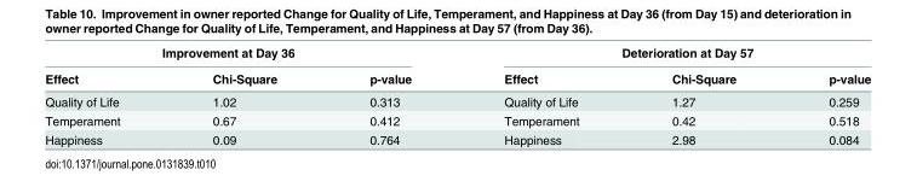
<table><thead><tr><td colspan="3">Improvement at Day 36</td><td colspan="3">Deterioration at Day 57</td></tr><tr><td>Effect</td><td>Chi-Square</td><td>p-value</td><td>Effect</td><td>Chi-Square</td><td>p-value</td></tr></thead><tbody><tr><td>Quality of Life</td><td>1.02</td><td>0.313</td><td>Quality of Life</td><td>1.27</td><td>0.259</td></tr><tr><td>Temperament</td><td>0.67</td><td>0.412</td><td>Temperament</td><td>0.42</td><td>0.518</td></tr><tr><td>Happiness</td><td>0.09</td><td>0.764</td><td>Happiness</td><td>2.98</td><td>0.084</td></tr></tbody></table>